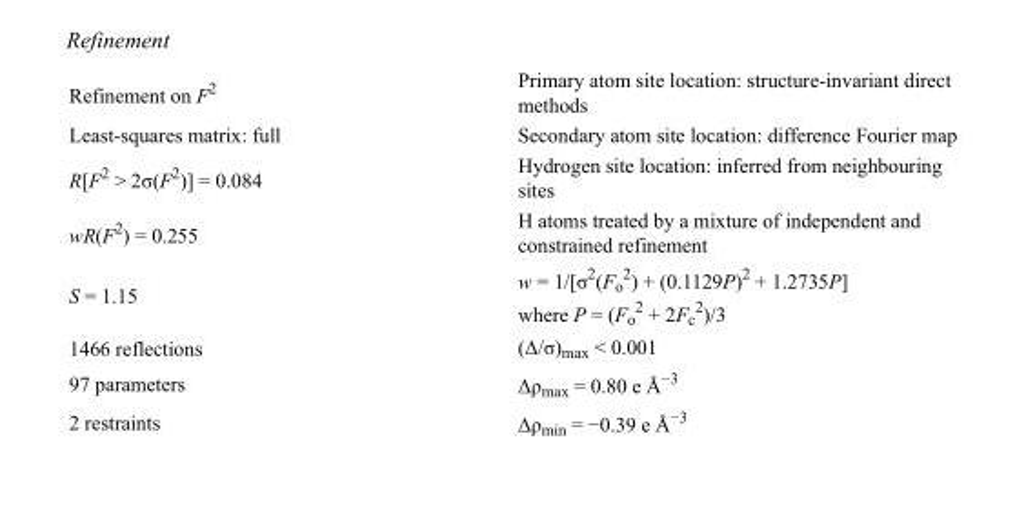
<table><tbody><tr><td>Refinement on F<sup>2</sup></td><td>Primary atom site location: structure-invariant direct methods</td></tr><tr><td>Least-squares matrix: full</td><td>Secondary atom site location: difference Fourier map</td></tr><tr><td>R[F<sup>2</sup> &gt; 2σ(F<sup>2</sup>)] = 0.084</td><td>Hydrogen site location: inferred from neighbouring sites</td></tr><tr><td>wR(F<sup>2</sup>) = 0.255</td><td>H atoms treated by a mixture of independent and constrained refinement</td></tr><tr><td>S = 1.15</td><td>w = 1/[σ<sup>2</sup>(F<sub>o</sub> <sup>2</sup>) + (0.1129P)<sup>2</sup> + 1.2735P] where P = (F<sub>o</sub> <sup>2</sup> + 2F<sub>c</sub> <sup>2</sup>)/3</td></tr><tr><td>1466 reflections</td><td>(Δ/σ)<sub>max</sub> &lt; 0.001</td></tr><tr><td>97 parameters</td><td>Δρ<sub>max</sub> = 0.80 e Å<sup>−3</sup></td></tr><tr><td>2 restraints</td><td>Δρ<sub>min</sub> = −0.39 e Å<sup>−3</sup></td></tr></tbody></table>